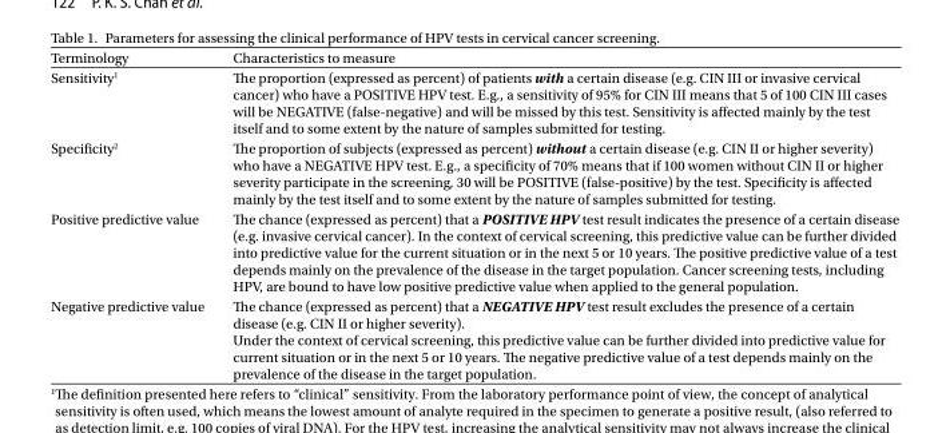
<table><thead><tr><td>Terminology</td><td>Characteristics to measure</td></tr></thead><tbody><tr><td>Sensitivity<sup>1</sup></td><td>The proportion (expressed as percent) of patients with a certain disease (e.g. CIN III or invasive cervical cancer) who have a POSITIVE HPV test. E.g., a sensitivity of 95% for CIN III means that 5 of 100 CIN III cases will be NEGATIVE (false-negative) and will be missed by this test. Sensitivity is affected mainly by the test itself and to some extent by the nature of samples submitted for testing.</td></tr><tr><td>Specificity<sup>2</sup></td><td>The proportion of subjects (expressed as percent) without a certain disease (e.g. CIN II or higher severity) who have a NEGATIVE HPV test. E.g., a specificity of 70% means that if 100 women without CIN II or higher severity participate in the screening, 30 will be POSITIVE (false-positive) by the test. Specificity is affected mainly by the test itself and to some extent by the nature of samples submitted for testing.</td></tr><tr><td>Positive predictive value</td><td>The chance (expressed as percent) that a POSITIVE HPV test result indicates the presence of a certain disease (e.g. invasive cervical cancer). In the context of cervical screening, this predictive value can be further divided into predictive value for the current situation or in the next 5 or 10 years. The positive predictive value of a test depends mainly on the prevalence of the disease in the target population. Cancer screening tests, including HPV, are bound to have low positive predictive value when applied to the general population.</td></tr><tr><td>Negative predictive value</td><td>The chance (expressed as percent) that a NEGATIVE HPV test result excludes the presence of a certain disease (e.g. CIN II or higher severity). Under the context of cervical screening, this predictive value can be further divided into predictive value for current situation or in the next 5 or 10 years. The negative predictive value of a test depends mainly on the prevalence of the disease in the target population.</td></tr></tbody></table>